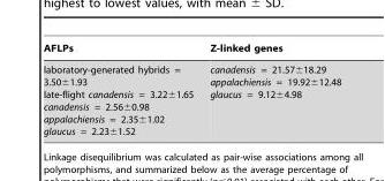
<table><thead><tr><td>AFLPs</td><td>Z-linked genes</td></tr></thead><tbody><tr><td>laboratory-generated hybrids = 3.50±1.93 late-flight canadensis = 3.22±1.65 canadensis = 2.56±0.98 appalachiensis = 2.35±1.02 glaucus = 2.23±1.52</td><td>canadensis = 21.57±18.29 appalachiensis = 19.92±12.48 glaucus = 9.12±4.98</td></tr></tbody></table>